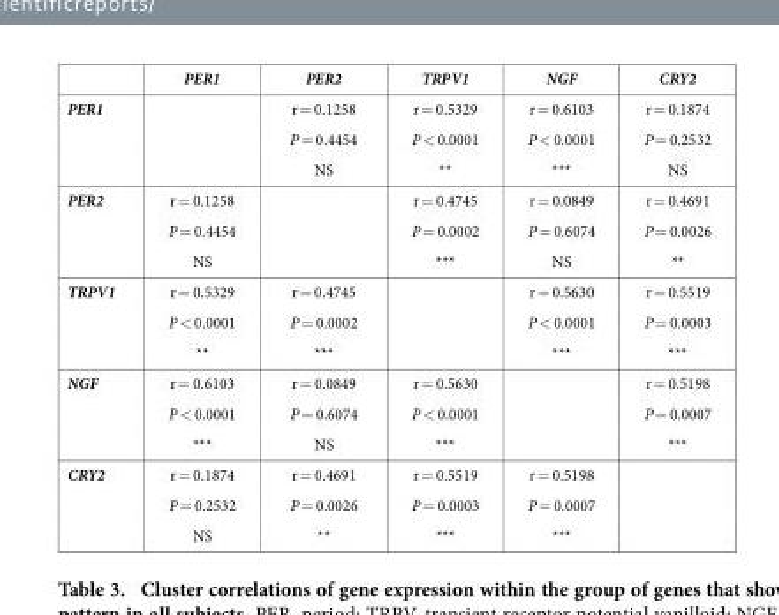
<table><thead><tr><td></td><td>PER1</td><td>PER2</td><td>TRPV1</td><td>NGF</td><td>CRY2</td></tr></thead><tbody><tr><td rowspan="3">PER1</td><td rowspan="3"></td><td>r = 0.1258</td><td>r = 0.5329</td><td>r = 0.6103</td><td>r = 0.1874</td></tr><tr><td>P = 0.4454</td><td>P &lt; 0.0001</td><td>P &lt; 0.0001</td><td>P = 0.2532</td></tr><tr><td>NS</td><td>**</td><td>***</td><td>NS</td></tr><tr><td rowspan="3">PER2</td><td>r = 0.1258</td><td rowspan="3"></td><td>r = 0.4745</td><td>r = 0.0849</td><td>r = 0.4691</td></tr><tr><td>P = 0.4454</td><td>P = 0.0002</td><td>P = 0.6074</td><td>P = 0.0026</td></tr><tr><td>NS</td><td>***</td><td>NS</td><td>**</td></tr><tr><td rowspan="3">TRPV1</td><td>r = 0.5329</td><td>r = 0.4745</td><td rowspan="3"></td><td>r = 0.5630</td><td>r = 0.5519</td></tr><tr><td>P &lt; 0.0001</td><td>P = 0.0002</td><td>P &lt; 0.0001</td><td>P = 0.0003</td></tr><tr><td>**</td><td>***</td><td>***</td><td>***</td></tr><tr><td rowspan="3">NGF</td><td>r = 0.6103</td><td>r = 0.0849</td><td>r = 0.5630</td><td rowspan="3"></td><td>r = 0.5198</td></tr><tr><td>P &lt; 0.0001</td><td>P = 0.6074</td><td>P &lt; 0.0001</td><td>P = 0.0007</td></tr><tr><td>***</td><td>NS</td><td>***</td><td>***</td></tr><tr><td rowspan="3">CRY2</td><td>r = 0.1874</td><td>r = 0.4691</td><td>r = 0.5519</td><td>r = 0.5198</td><td rowspan="3"></td></tr><tr><td>P = 0.2532</td><td>P = 0.0026</td><td>P = 0.0003</td><td>P = 0.0007</td></tr><tr><td>NS</td><td>**</td><td>***</td><td>***</td></tr></tbody></table>